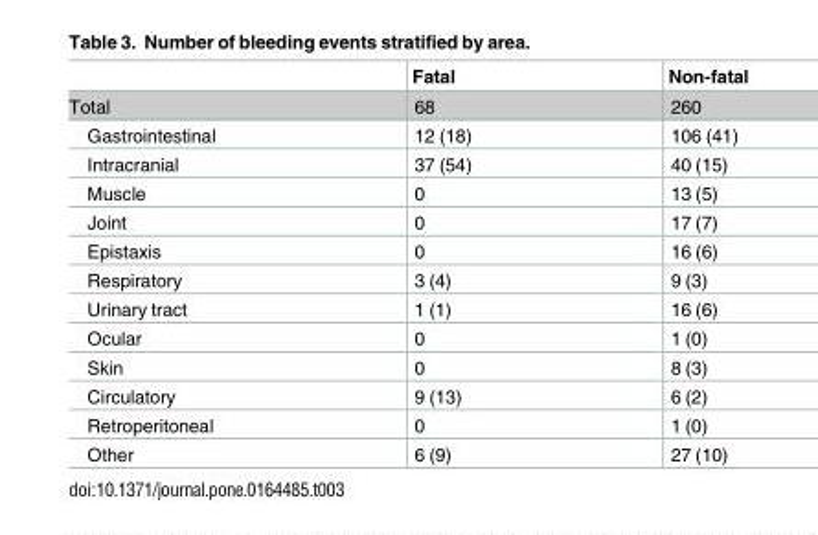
<table><thead><tr><td></td><td>Fatal</td><td>Non-fatal</td></tr></thead><tbody><tr><td>Total</td><td>68</td><td>260</td></tr><tr><td>Gastrointestinal</td><td>12 (18)</td><td>106 (41)</td></tr><tr><td>Intracranial</td><td>37 (54)</td><td>40 (15)</td></tr><tr><td>Muscle</td><td>0</td><td>13 (5)</td></tr><tr><td>Joint</td><td>0</td><td>17 (7)</td></tr><tr><td>Epistaxis</td><td>0</td><td>16 (6)</td></tr><tr><td>Respiratory</td><td>3 (4)</td><td>9 (3)</td></tr><tr><td>Urinary tract</td><td>1 (1)</td><td>16 (6)</td></tr><tr><td>Ocular</td><td>0</td><td>1 (0)</td></tr><tr><td>Skin</td><td>0</td><td>8 (3)</td></tr><tr><td>Circulatory</td><td>9 (13)</td><td>6 (2)</td></tr><tr><td>Retroperitoneal</td><td>0</td><td>1 (0)</td></tr><tr><td>Other</td><td>6 (9)</td><td>27 (10)</td></tr></tbody></table>